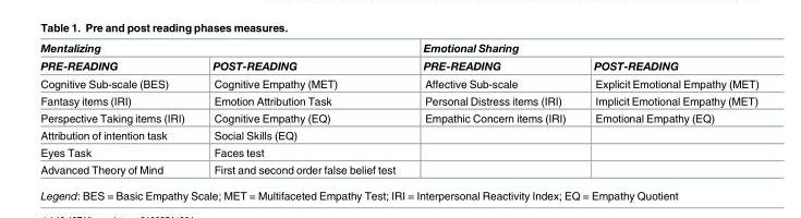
<table><thead><tr><td colspan="2">Mentalizing</td><td colspan="2">Emotional Sharing</td></tr><tr><td>PRE-READING</td><td>POST-READING</td><td>PRE-READING</td><td>POST-READING</td></tr></thead><tbody><tr><td>Cognitive Sub-scale (BES)</td><td>Cognitive Empathy (MET)</td><td>Affective Sub-scale</td><td>Explicit Emotional Empathy (MET)</td></tr><tr><td>Fantasy items (IRI)</td><td>Emotion Attribution Task</td><td>Personal Distress items (IRI)</td><td>Implicit Emotional Empathy (MET)</td></tr><tr><td>Perspective Taking items (IRI)</td><td>Cognitive Empathy (EQ)</td><td>Empathic Concern items (IRI)</td><td>Emotional Empathy (EQ)</td></tr><tr><td>Attribution of intention task</td><td>Social Skills (EQ)</td><td></td><td></td></tr><tr><td>Eyes Task</td><td>Faces test</td><td></td><td></td></tr><tr><td>Advanced Theory of Mind</td><td>First and second order false belief test</td><td></td><td></td></tr></tbody></table>